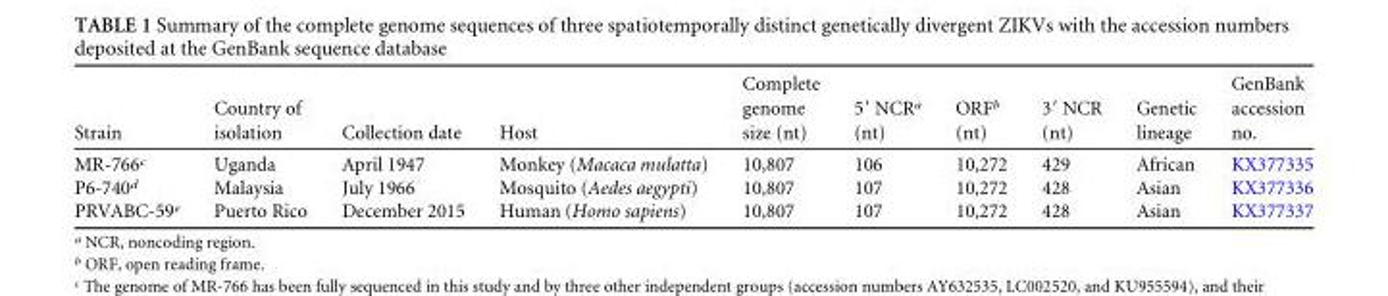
<table><thead><tr><td>Strain</td><td>Country of isolation</td><td>Collection date</td><td>Host</td><td>Complete genome size (nt)</td><td>5= NCRa (nt)</td><td>ORF<sup>b</sup> (nt)</td><td>3= NCR (nt)</td><td>Genetic lineage</td><td>GenBank accession no.</td></tr></thead><tbody><tr><td>MR-766<sup>c</sup></td><td>Uganda</td><td>April 1947</td><td>Monkey (Macaca mulatta)</td><td>10,807</td><td>106</td><td>10,272</td><td>429</td><td>African</td><td>KX377335</td></tr><tr><td>P6-740<sup>d</sup></td><td>Malaysia</td><td>July 1966</td><td>Mosquito (Aedes aegypti)</td><td>10,807</td><td>107</td><td>10,272</td><td>428</td><td>Asian</td><td>KX377336</td></tr><tr><td>PRVABC-59<sup>e</sup></td><td>Puerto Rico</td><td>December 2015</td><td>Human (Homo sapiens)</td><td>10,807</td><td>107</td><td>10,272</td><td>428</td><td>Asian</td><td>KX377337</td></tr></tbody></table>